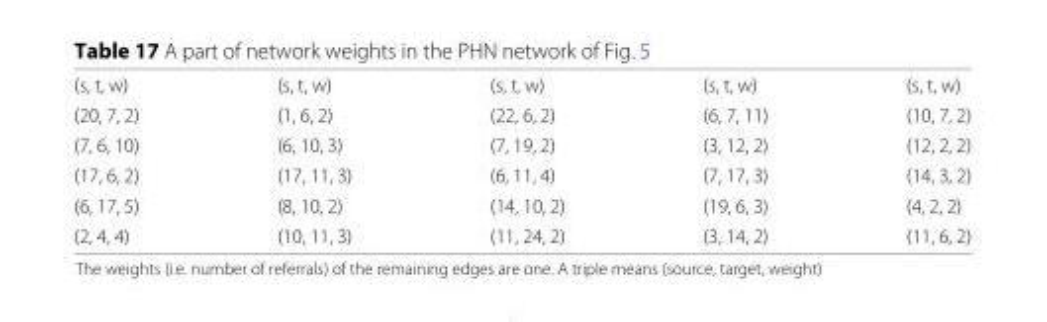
<table><tbody><tr><td>(s, t, w)</td><td>(s, t, w)</td><td>(s, t, w)</td><td>(s, t, w)</td><td>(s, t, w)</td></tr><tr><td>(20, 7, 2)</td><td>(1, 6, 2)</td><td>(22, 6, 2)</td><td>(6, 7, 11)</td><td>(10, 7, 2)</td></tr><tr><td>(7, 6, 10)</td><td>(6, 10, 3)</td><td>(7, 19, 2)</td><td>(3, 12, 2)</td><td>(12, 2, 2)</td></tr><tr><td>(17, 6, 2)</td><td>(17, 11, 3)</td><td>(6, 11, 4)</td><td>(7, 17, 3)</td><td>(14, 3, 2)</td></tr><tr><td>(6, 17, 5)</td><td>(8, 10, 2)</td><td>(14, 10, 2)</td><td>(19, 6, 3)</td><td>(4, 2, 2)</td></tr><tr><td>(2, 4, 4)</td><td>(10, 11, 3)</td><td>(11, 24, 2)</td><td>(3, 14, 2)</td><td>(11, 6, 2)</td></tr></tbody></table>